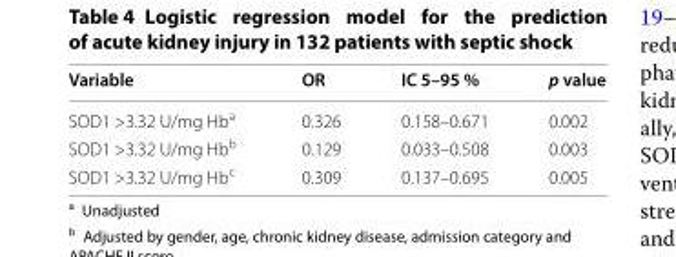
<table><thead><tr><td>Variable</td><td>OR</td><td>IC 5–95 %</td><td>p value</td></tr></thead><tbody><tr><td>SOD1 &gt;3.32 U/mg Hb<sup>a</sup></td><td>0.326</td><td>0.158–0.671</td><td>0.002</td></tr><tr><td>SOD1 &gt;3.32 U/mg Hb<sup>b</sup></td><td>0.129</td><td>0.033–0.508</td><td>0.003</td></tr><tr><td>SOD1 &gt;3.32 U/mg Hb<sup>c</sup></td><td>0.309</td><td>0.137–0.695</td><td>0.005</td></tr></tbody></table>